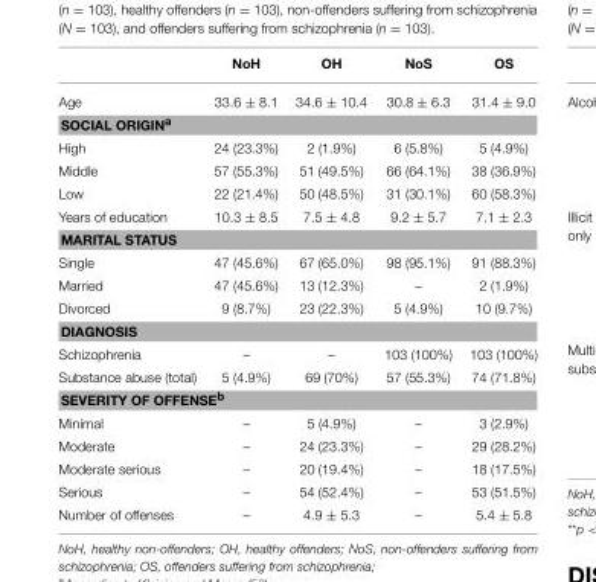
<table><thead><tr><td></td><td>NoH</td><td>OH</td><td>NoS</td><td>OS</td></tr></thead><tbody><tr><td>Age</td><td>33.6 ± 8.1</td><td>34.6 ± 10.4</td><td>30.8 ± 6.3</td><td>31.4 ± 9.0</td></tr><tr><td colspan="5">SOCIAL ORIGIN<sup>a</sup></td></tr><tr><td>High</td><td>24 (23.3%)</td><td>2 (1.9%)</td><td>6 (5.8%)</td><td>5 (4.9%)</td></tr><tr><td>Middle</td><td>57 (55.3%)</td><td>51 (49.5%)</td><td>66 (64.1%)</td><td>38 (36.9%)</td></tr><tr><td>Low</td><td>22 (21.4%)</td><td>50 (48.5%)</td><td>31 (30.1%)</td><td>60 (58.3%)</td></tr><tr><td>Years of education</td><td>10.3 ± 8.5</td><td>7.5 ± 4.8</td><td>9.2 ± 5.7</td><td>7.1 ± 2.3</td></tr><tr><td colspan="5">MARITAL STATUS</td></tr><tr><td>Single</td><td>47 (45.6%)</td><td>67 (65.0%)</td><td>98 (95.1%)</td><td>91 (88.3%)</td></tr><tr><td>Married</td><td>47 (45.6%)</td><td>13 (12.3%)</td><td>–</td><td>2 (1.9%)</td></tr><tr><td>Divorced</td><td>9 (8.7%)</td><td>23 (22.3%)</td><td>5 (4.9%)</td><td>10 (9.7%)</td></tr><tr><td colspan="5">DIAGNOSIS</td></tr><tr><td>Schizophrenia</td><td>–</td><td>–</td><td>103 (100%)</td><td>103 (100%)</td></tr><tr><td>Substance abuse (total)</td><td>5 (4.9%)</td><td>69 (70%)</td><td>57 (55.3%)</td><td>74 (71.8%)</td></tr><tr><td colspan="5">SEVERITY OF OFFENSE<sup>b</sup></td></tr><tr><td>Minimal</td><td>–</td><td>5 (4.9%)</td><td>–</td><td>3 (2.9%)</td></tr><tr><td>Moderate</td><td>–</td><td>24 (23.3%)</td><td>–</td><td>29 (28.2%)</td></tr><tr><td>Moderate serious</td><td>–</td><td>20 (19.4%)</td><td>–</td><td>18 (17.5%)</td></tr><tr><td>Serious</td><td>–</td><td>54 (52.4%)</td><td>–</td><td>53 (51.5%)</td></tr><tr><td>Number of offenses</td><td>–</td><td>4.9 ± 5.3</td><td>–</td><td>5.4 ± 5.8</td></tr></tbody></table>